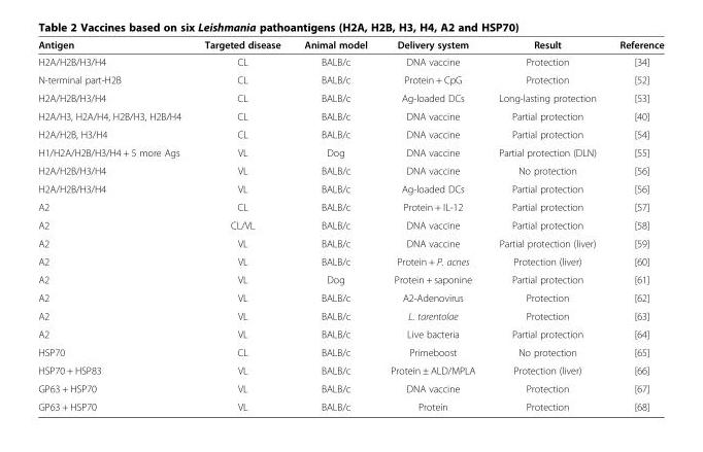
<table><thead><tr><td>Antigen</td><td>Targeted disease</td><td>Animal model</td><td>Delivery system</td><td>Result</td><td>Reference</td></tr></thead><tbody><tr><td>H2A/H2B/H3/H4</td><td>CL</td><td>BALB/c</td><td>DNA vaccine</td><td>Protection</td><td>[34]</td></tr><tr><td>N-terminal part-H2B</td><td>CL</td><td>BALB/c</td><td>Protein + CpG</td><td>Protection</td><td>[52]</td></tr><tr><td>H2A/H2B/H3/H4</td><td>CL</td><td>BALB/c</td><td>Ag-loaded DCs</td><td>Long-lasting protection</td><td>[53]</td></tr><tr><td>H2A/H3, H2A/H4, H2B/H3, H2B/H4</td><td>CL</td><td>BALB/c</td><td>DNA vaccine</td><td>Partial protection</td><td>[40]</td></tr><tr><td>H2A/H2B, H3/H4</td><td>CL</td><td>BALB/c</td><td>DNA vaccine</td><td>Partial protection</td><td>[54]</td></tr><tr><td>H1/H2A/H2B/H3/H4 + 5 more Ags</td><td>VL</td><td>Dog</td><td>DNA vaccine</td><td>Partial protection (DLN)</td><td>[55]</td></tr><tr><td>H2A/H2B/H3/H4</td><td>VL</td><td>BALB/c</td><td>DNA vaccine</td><td>No protection</td><td>[56]</td></tr><tr><td>H2A/H2B/H3/H4</td><td>VL</td><td>BALB/c</td><td>Ag-loaded DCs</td><td>Partial protection</td><td>[56]</td></tr><tr><td>A2</td><td>CL</td><td>BALB/c</td><td>Protein + IL-12</td><td>Partial protection</td><td>[57]</td></tr><tr><td>A2</td><td>CL/VL</td><td>BALB/c</td><td>DNA vaccine</td><td>Partial protection</td><td>[58]</td></tr><tr><td>A2</td><td>VL</td><td>BALB/c</td><td>DNA vaccine</td><td>Partial protection (liver)</td><td>[59]</td></tr><tr><td>A2</td><td>VL</td><td>BALB/c</td><td>Protein + P. acnes</td><td>Protection (liver)</td><td>[60]</td></tr><tr><td>A2</td><td>VL</td><td>Dog</td><td>Protein + saponine</td><td>Partial protection</td><td>[61]</td></tr><tr><td>A2</td><td>VL</td><td>BALB/c</td><td>A2-Adenovirus</td><td>Protection</td><td>[62]</td></tr><tr><td>A2</td><td>VL</td><td>BALB/c</td><td>L. tarentolae</td><td>Protection</td><td>[63]</td></tr><tr><td>A2</td><td>VL</td><td>BALB/c</td><td>Live bacteria</td><td>Partial protection</td><td>[64]</td></tr><tr><td>HSP70</td><td>CL</td><td>BALB/c</td><td>Primeboost</td><td>No protection</td><td>[65]</td></tr><tr><td>HSP70 + HSP83</td><td>VL</td><td>BALB/c</td><td>Protein ± ALD/MPLA</td><td>Protection (liver)</td><td>[66]</td></tr><tr><td>GP63 + HSP70</td><td>VL</td><td>BALB/c</td><td>DNA vaccine</td><td>Protection</td><td>[67]</td></tr><tr><td>GP63 + HSP70</td><td>VL</td><td>BALB/c</td><td>Protein</td><td>Protection</td><td>[68]</td></tr></tbody></table>